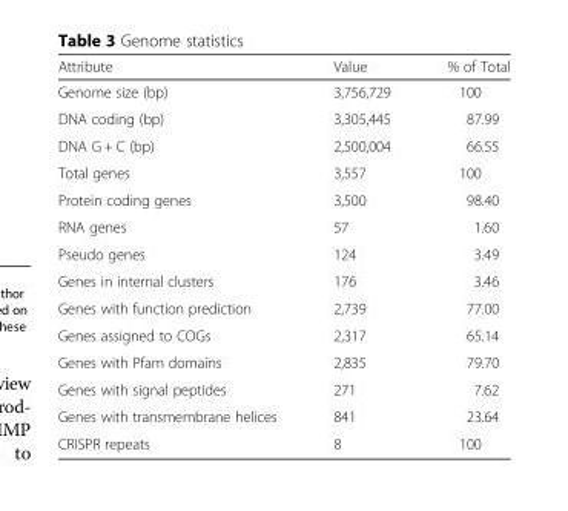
<table><thead><tr><td>Attribute</td><td>Value</td><td>% of Total</td></tr></thead><tbody><tr><td>Genome size (bp)</td><td>3,756,729</td><td>100</td></tr><tr><td>DNA coding (bp)</td><td>3,305,445</td><td>87.99</td></tr><tr><td>DNA G + C (bp)</td><td>2,500,004</td><td>66.55</td></tr><tr><td>Total genes</td><td>3,557</td><td>100</td></tr><tr><td>Protein coding genes</td><td>3,500</td><td>98.40</td></tr><tr><td>RNA genes</td><td>57</td><td>1.60</td></tr><tr><td>Pseudo genes</td><td>124</td><td>3.49</td></tr><tr><td>Genes in internal clusters</td><td>176</td><td>3.46</td></tr><tr><td>Genes with function prediction</td><td>2,739</td><td>77.00</td></tr><tr><td>Genes assigned to COGs</td><td>2,317</td><td>65.14</td></tr><tr><td>Genes with Pfam domains</td><td>2,835</td><td>79.70</td></tr><tr><td>Genes with signal peptides</td><td>271</td><td>7.62</td></tr><tr><td>Genes with transmembrane helices</td><td>841</td><td>23.64</td></tr><tr><td>CRISPR repeats</td><td>8</td><td>100</td></tr></tbody></table>